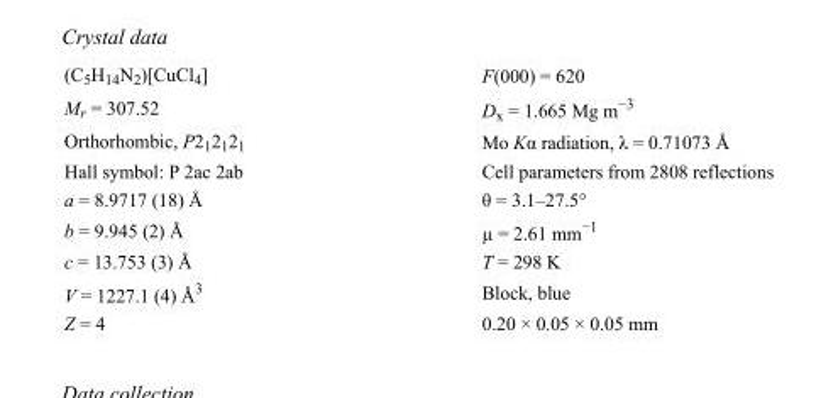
<table><tbody><tr><td>(C<sub>5</sub>H<sub>14</sub>N<sub>2</sub>)[CuCl<sub>4</sub>]</td><td>F(000) = 620</td></tr><tr><td>M<sub>r</sub> = 307.52</td><td>D<sub>x</sub> = 1.665 Mg m<sup>−3</sup></td></tr><tr><td>Orthorhombic, P2<sub>1</sub>2<sub>1</sub>2<sub>1</sub></td><td>Mo Kα radiation, λ = 0.71073 Å</td></tr><tr><td>Hall symbol: P 2ac 2ab</td><td>Cell parameters from 2808 reflections</td></tr><tr><td>a = 8.9717 (18) Å</td><td>θ = 3.1–27.5°</td></tr><tr><td>b = 9.945 (2) Å</td><td>µ = 2.61 mm<sup>−1</sup></td></tr><tr><td>c = 13.753 (3) Å</td><td>T = 298 K</td></tr><tr><td>V = 1227.1 (4) Å<sup>3</sup></td><td>Block, blue</td></tr><tr><td>Z = 4</td><td>0.20 × 0.05 × 0.05 mm</td></tr></tbody></table>